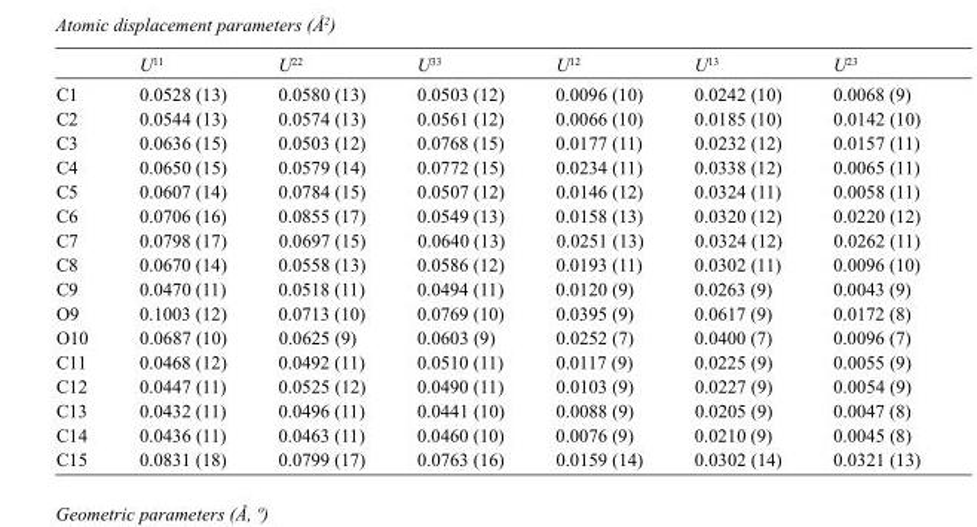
<table><thead><tr><td></td><td>U<sup>11</sup></td><td>U<sup>22</sup></td><td>U<sup>33</sup></td><td>U<sup>12</sup></td><td>U<sup>13</sup></td><td>U<sup>23</sup></td></tr></thead><tbody><tr><td>C1</td><td>0.0528 (13)</td><td>0.0580 (13)</td><td>0.0503 (12)</td><td>0.0096 (10)</td><td>0.0242 (10)</td><td>0.0068 (9)</td></tr><tr><td>C2</td><td>0.0544 (13)</td><td>0.0574 (13)</td><td>0.0561 (12)</td><td>0.0066 (10)</td><td>0.0185 (10)</td><td>0.0142 (10)</td></tr><tr><td>C3</td><td>0.0636 (15)</td><td>0.0503 (12)</td><td>0.0768 (15)</td><td>0.0177 (11)</td><td>0.0232 (12)</td><td>0.0157 (11)</td></tr><tr><td>C4</td><td>0.0650 (15)</td><td>0.0579 (14)</td><td>0.0772 (15)</td><td>0.0234 (11)</td><td>0.0338 (12)</td><td>0.0065 (11)</td></tr><tr><td>C5</td><td>0.0607 (14)</td><td>0.0784 (15)</td><td>0.0507 (12)</td><td>0.0146 (12)</td><td>0.0324 (11)</td><td>0.0058 (11)</td></tr><tr><td>C6</td><td>0.0706 (16)</td><td>0.0855 (17)</td><td>0.0549 (13)</td><td>0.0158 (13)</td><td>0.0320 (12)</td><td>0.0220 (12)</td></tr><tr><td>C7</td><td>0.0798 (17)</td><td>0.0697 (15)</td><td>0.0640 (13)</td><td>0.0251 (13)</td><td>0.0324 (12)</td><td>0.0262 (11)</td></tr><tr><td>C8</td><td>0.0670 (14)</td><td>0.0558 (13)</td><td>0.0586 (12)</td><td>0.0193 (11)</td><td>0.0302 (11)</td><td>0.0096 (10)</td></tr><tr><td>C9</td><td>0.0470 (11)</td><td>0.0518 (11)</td><td>0.0494 (11)</td><td>0.0120 (9)</td><td>0.0263 (9)</td><td>0.0043 (9)</td></tr><tr><td>O9</td><td>0.1003 (12)</td><td>0.0713 (10)</td><td>0.0769 (10)</td><td>0.0395 (9)</td><td>0.0617 (9)</td><td>0.0172 (8)</td></tr><tr><td>O10</td><td>0.0687 (10)</td><td>0.0625 (9)</td><td>0.0603 (9)</td><td>0.0252 (7)</td><td>0.0400 (7)</td><td>0.0096 (7)</td></tr><tr><td>C11</td><td>0.0468 (12)</td><td>0.0492 (11)</td><td>0.0510 (11)</td><td>0.0117 (9)</td><td>0.0225 (9)</td><td>0.0055 (9)</td></tr><tr><td>C12</td><td>0.0447 (11)</td><td>0.0525 (12)</td><td>0.0490 (11)</td><td>0.0103 (9)</td><td>0.0227 (9)</td><td>0.0054 (9)</td></tr><tr><td>C13</td><td>0.0432 (11)</td><td>0.0496 (11)</td><td>0.0441 (10)</td><td>0.0088 (9)</td><td>0.0205 (9)</td><td>0.0047 (8)</td></tr><tr><td>C14</td><td>0.0436 (11)</td><td>0.0463 (11)</td><td>0.0460 (10)</td><td>0.0076 (9)</td><td>0.0210 (9)</td><td>0.0045 (8)</td></tr><tr><td>C15</td><td>0.0831 (18)</td><td>0.0799 (17)</td><td>0.0763 (16)</td><td>0.0159 (14)</td><td>0.0302 (14)</td><td>0.0321 (13)</td></tr></tbody></table>